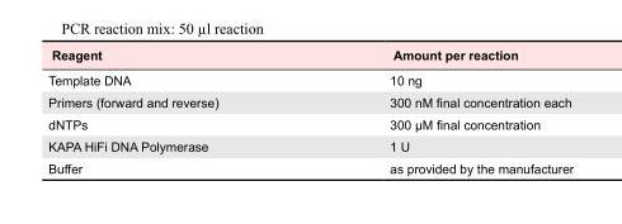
<table><tbody><tr><td>Reagent</td><td>Amount per reaction</td></tr><tr><td>Template DNA</td><td>10 ng</td></tr><tr><td>Primers (forward and reverse)</td><td>300 nM final concentration each</td></tr><tr><td>dNTPs</td><td>300 µM final concentration</td></tr><tr><td>KAPA HiFi DNA Polymerase</td><td>1 U</td></tr><tr><td>Buffer</td><td>as provided by the manufacturer</td></tr></tbody></table>